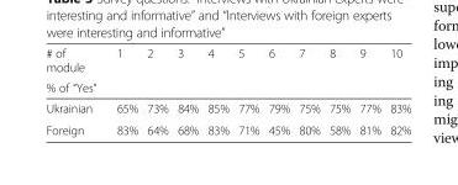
<table><thead><tr><td rowspan="2"># of module % of “Yes”</td><td rowspan="2">1</td><td rowspan="2">2</td><td rowspan="2">3</td><td rowspan="2">4</td><td rowspan="2">5</td><td rowspan="2">6</td><td rowspan="2">7</td><td rowspan="2">8</td><td rowspan="2">9</td><td rowspan="2">10</td></tr><tr></tr></thead><tbody><tr><td>Ukrainian</td><td>65%</td><td>73%</td><td>84%</td><td>85%</td><td>77%</td><td>79%</td><td>75%</td><td>75%</td><td>77%</td><td>83%</td></tr><tr><td>Foreign</td><td>83%</td><td>64%</td><td>68%</td><td>83%</td><td>71%</td><td>45%</td><td>80%</td><td>58%</td><td>81%</td><td>82%</td></tr></tbody></table>